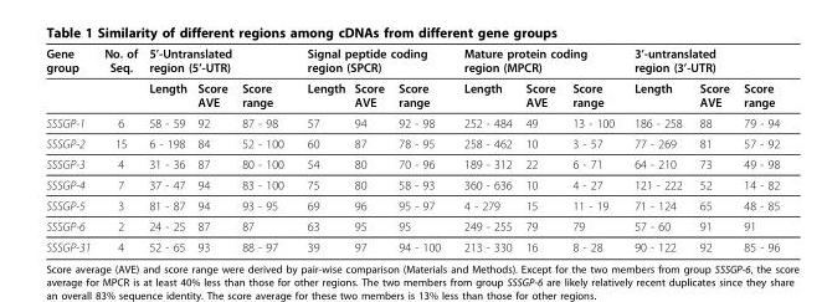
<table><thead><tr><td rowspan="2">Gene group</td><td rowspan="2">No. of Seq.</td><td colspan="3">5’-Untranslated region (5’-UTR)</td><td colspan="3">Signal peptide coding region (SPCR)</td><td colspan="3">Mature protein coding region (MPCR)</td><td colspan="3">3’-untranslated region (3’-UTR)</td></tr><tr><td>Length</td><td>Score AVE</td><td>Score range</td><td>Length</td><td>Score AVE</td><td>Score range</td><td>Length</td><td>Score AVE</td><td>Score range</td><td>Length</td><td>Score AVE</td><td>Score range</td></tr></thead><tbody><tr><td>SSSGP-1</td><td>6</td><td>58 - 59</td><td>92</td><td>87 - 98</td><td>57</td><td>94</td><td>92 - 98</td><td>252 - 484</td><td>49</td><td>13 - 100</td><td>186 - 258</td><td>88</td><td>79 - 94</td></tr><tr><td>SSSGP-2</td><td>15</td><td>6 - 198</td><td>84</td><td>52 - 100</td><td>60</td><td>87</td><td>78 - 95</td><td>258 - 462</td><td>10</td><td>3 - 57</td><td>77 - 269</td><td>81</td><td>57 - 92</td></tr><tr><td>SSSGP-3</td><td>4</td><td>31 - 36</td><td>87</td><td>80 - 100</td><td>54</td><td>80</td><td>70 - 96</td><td>189 - 312</td><td>22</td><td>6 - 71</td><td>64 - 210</td><td>73</td><td>49 - 98</td></tr><tr><td>SSSGP-4</td><td>7</td><td>37 - 47</td><td>94</td><td>83 - 100</td><td>75</td><td>80</td><td>58 - 93</td><td>360 - 636</td><td>10</td><td>4 - 27</td><td>121 - 222</td><td>52</td><td>14 - 82</td></tr><tr><td>SSSGP-5</td><td>3</td><td>81 - 87</td><td>94</td><td>93 - 95</td><td>69</td><td>96</td><td>95 - 97</td><td>4 - 279</td><td>15</td><td>11 - 19</td><td>71 - 124</td><td>65</td><td>48 - 85</td></tr><tr><td>SSSGP-6</td><td>2</td><td>24 - 25</td><td>87</td><td>87</td><td>63</td><td>95</td><td>95</td><td>249 - 255</td><td>79</td><td>79</td><td>57 - 60</td><td>91</td><td>91</td></tr><tr><td>SSSGP-31</td><td>4</td><td>52 - 65</td><td>93</td><td>88 - 97</td><td>39</td><td>97</td><td>94 - 100</td><td>213 - 330</td><td>16</td><td>8 - 28</td><td>90 - 122</td><td>92</td><td>85 - 96</td></tr></tbody></table>